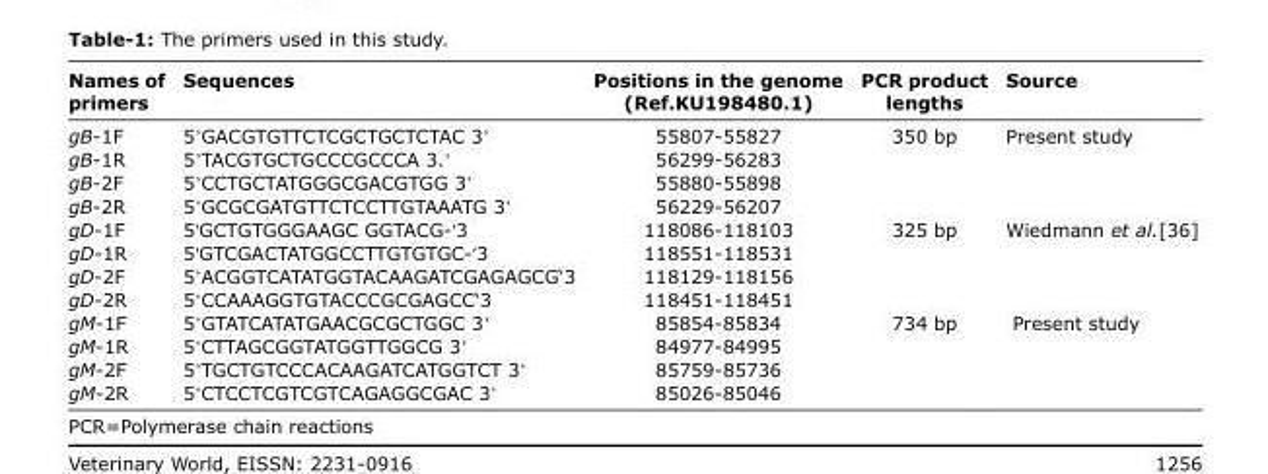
<table><thead><tr><td>Names of primers</td><td>Sequences</td><td>Positions in the genome (Ref.KU198480.1)</td><td>PCR product lengths</td><td>Source</td></tr></thead><tbody><tr><td>gB-1F</td><td>5’GACGTGTTCTCGCTGCTCTAC 3’</td><td>55807-55827</td><td>350 bp</td><td>Present study</td></tr><tr><td>gB-1R</td><td>5’TACGTGCTGCCCGCCCA 3.’</td><td>56299-56283</td><td></td><td></td></tr><tr><td>gB-2F</td><td>5’CCTGCTATGGGCGACGTGG 3’</td><td>55880-55898</td><td></td><td></td></tr><tr><td>gB-2R</td><td>5’GCGCGATGTTCTCCTTGTAAATG 3’</td><td>56229-56207</td><td></td><td></td></tr><tr><td>gD-1F</td><td>5′GCTGTGGGAAGC GGTACG-′3</td><td>118086-118103</td><td>325 bp</td><td>Wiedmann et al.[36]</td></tr><tr><td>gD-1R</td><td>5′GTCGACTATGGCCTTGTGTGC-′3</td><td>118551-118531</td><td></td><td></td></tr><tr><td>gD-2F</td><td>5’ACGGTCATATGGTACAAGATCGAGAGCG‘3</td><td>118129-118156</td><td></td><td></td></tr><tr><td>gD-2R</td><td>5’CCAAAGGTGTACCCGCGAGCC‘3</td><td>118451-118451</td><td></td><td></td></tr><tr><td>gM-1F</td><td>5’GTATCATATGAACGCGCTGGC 3’</td><td>85854-85834</td><td>734 bp</td><td>Present study</td></tr><tr><td>gM-1R</td><td>5’CTTAGCGGTATGGTTGGCG 3’</td><td>84977-84995</td><td></td><td></td></tr><tr><td>gM-2F</td><td>5’TGCTGTCCCACAAGATCATGGTCT 3’</td><td>85759-85736</td><td></td><td></td></tr><tr><td>gM-2R</td><td>5’CTCCTCGTCGTCAGAGGCGAC 3’</td><td>85026-85046</td><td></td><td></td></tr></tbody></table>